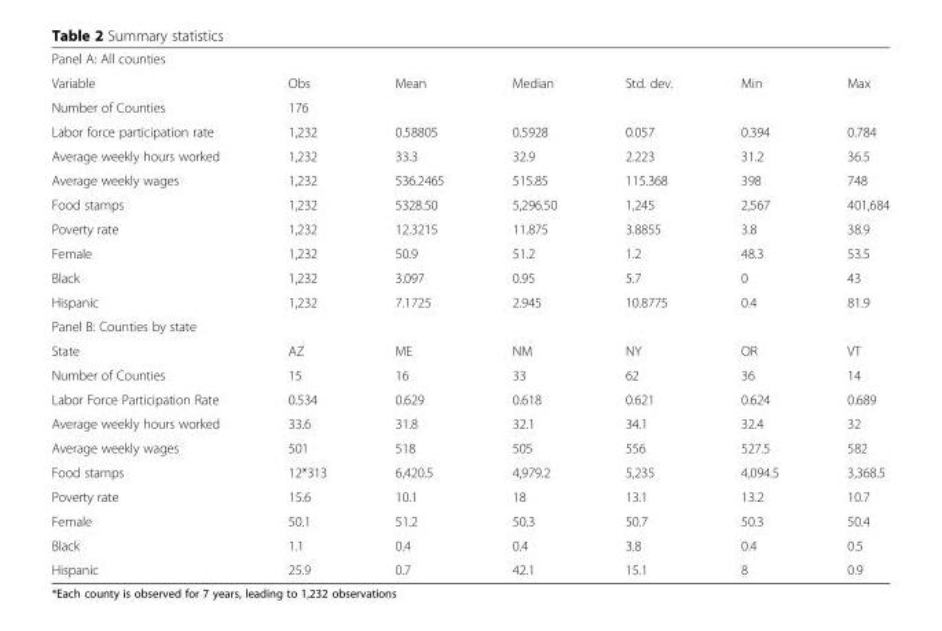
<table><tbody><tr><td colspan="7">Panel A: All counties</td></tr><tr><td>Variable</td><td>Obs</td><td>Mean</td><td>Median</td><td>Std. dev.</td><td>Min</td><td>Max</td></tr><tr><td>Number of Counties</td><td>176</td><td></td><td></td><td></td><td></td><td></td></tr><tr><td>Labor force participation rate</td><td>1,232</td><td>0.58805</td><td>0.5928</td><td>0.057</td><td>0.394</td><td>0.784</td></tr><tr><td>Average weekly hours worked</td><td>1,232</td><td>33.3</td><td>32.9</td><td>2.223</td><td>31.2</td><td>36.5</td></tr><tr><td>Average weekly wages</td><td>1,232</td><td>536.2465</td><td>515.85</td><td>115.368</td><td>398</td><td>748</td></tr><tr><td>Food stamps</td><td>1,232</td><td>5328.50</td><td>5,296.50</td><td>1,245</td><td>2,567</td><td>401,684</td></tr><tr><td>Poverty rate</td><td>1,232</td><td>12.3215</td><td>11.875</td><td>3.8855</td><td>3.8</td><td>38.9</td></tr><tr><td>Female</td><td>1,232</td><td>50.9</td><td>51.2</td><td>1.2</td><td>48.3</td><td>53.5</td></tr><tr><td>Black</td><td>1,232</td><td>3.097</td><td>0.95</td><td>5.7</td><td>0</td><td>43</td></tr><tr><td>Hispanic</td><td>1,232</td><td>7.1725</td><td>2.945</td><td>10.8775</td><td>0.4</td><td>81.9</td></tr><tr><td colspan="7">Panel B: Counties by state</td></tr><tr><td>State</td><td>AZ</td><td>ME</td><td>NM</td><td>NY</td><td>OR</td><td>VT</td></tr><tr><td>Number of Counties</td><td>15</td><td>16</td><td>33</td><td>62</td><td>36</td><td>14</td></tr><tr><td>Labor Force Participation Rate</td><td>0.534</td><td>0.629</td><td>0.618</td><td>0.621</td><td>0.624</td><td>0.689</td></tr><tr><td>Average weekly hours worked</td><td>33.6</td><td>31.8</td><td>32.1</td><td>34.1</td><td>32.4</td><td>32</td></tr><tr><td>Average weekly wages</td><td>501</td><td>518</td><td>505</td><td>556</td><td>527.5</td><td>582</td></tr><tr><td>Food stamps</td><td>12*313</td><td>6,420.5</td><td>4,979.2</td><td>5,235</td><td>4,094.5</td><td>3,368.5</td></tr><tr><td>Poverty rate</td><td>15.6</td><td>10.1</td><td>18</td><td>13.1</td><td>13.2</td><td>10.7</td></tr><tr><td>Female</td><td>50.1</td><td>51.2</td><td>50.3</td><td>50.7</td><td>50.3</td><td>50.4</td></tr><tr><td>Black</td><td>1.1</td><td>0.4</td><td>0.4</td><td>3.8</td><td>0.4</td><td>0.5</td></tr><tr><td>Hispanic</td><td>25.9</td><td>0.7</td><td>42.1</td><td>15.1</td><td>8</td><td>0.9</td></tr></tbody></table>